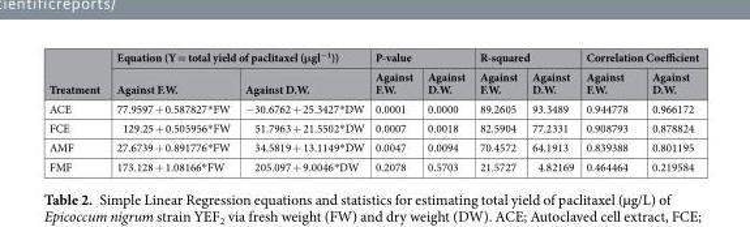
<table><thead><tr><td rowspan="2">Treatment</td><td colspan="2">Equation (Y = total yield of paclitaxel (μgl<sup>−1</sup>))</td><td colspan="2">P-value</td><td colspan="2">R-squared</td><td colspan="2">Correlation Coefficient</td></tr><tr><td>Against F.W.</td><td>Against D.W.</td><td>Against F.W.</td><td>Against D.W.</td><td>Against F.W.</td><td>Against D.W.</td><td>Against F.W.</td><td>Against D.W.</td></tr></thead><tbody><tr><td>ACE</td><td>77.9597 + 0.587827*FW</td><td>−30.6762 + 25.3427*DW</td><td>0.0001</td><td>0.0000</td><td>89.2605</td><td>93.3489</td><td>0.944778</td><td>0.966172</td></tr><tr><td>FCE</td><td>129.25 + 0.505956*FW</td><td>51.7963 + 21.5502*DW</td><td>0.0007</td><td>0.0018</td><td>82.5904</td><td>77.2331</td><td>0.908793</td><td>0.878824</td></tr><tr><td>AMF</td><td>27.6739 + 0.891776*FW</td><td>34.5819 + 13.1149*DW</td><td>0.0047</td><td>0.0094</td><td>70.4572</td><td>64.1913</td><td>0.839388</td><td>0.801195</td></tr><tr><td>FMF</td><td>173.128 + 1.08166*FW</td><td>205.097 + 9.0046*DW</td><td>0.2078</td><td>0.5703</td><td>21.5727</td><td>4.82169</td><td>0.464464</td><td>0.219584</td></tr></tbody></table>